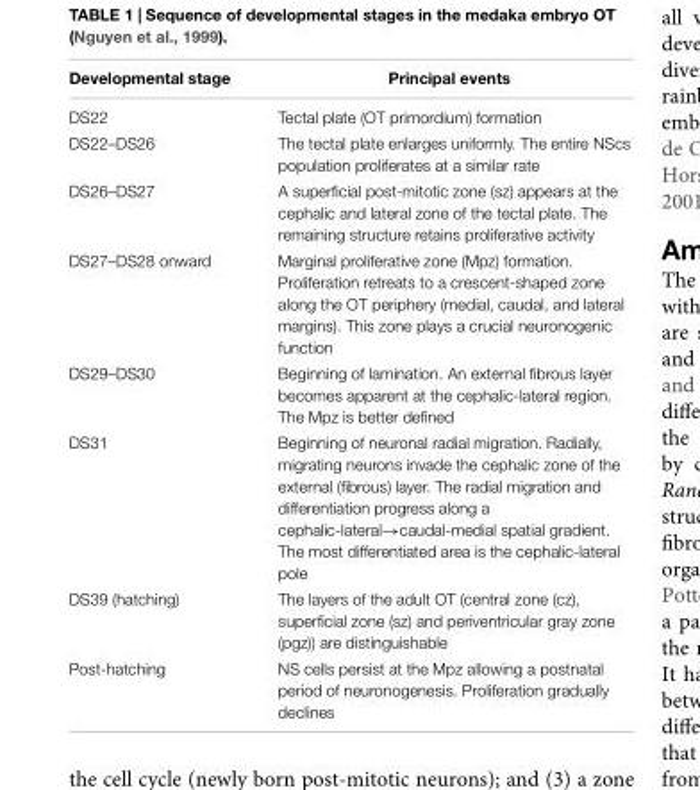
<table><thead><tr><td>Developmental stage</td><td>Principal events</td></tr></thead><tbody><tr><td>DS22</td><td>Tectal plate (OT primordium) formation</td></tr><tr><td>DS22–DS26</td><td>The tectal plate enlarges uniformly. The entire NScs population proliferates at a similar rate</td></tr><tr><td>DS26–DS27</td><td>A superficial post-mitotic zone (sz) appears at the cephalic and lateral zone of the tectal plate. The remaining structure retains proliferative activity</td></tr><tr><td>DS27–DS28 onward</td><td>Marginal proliferative zone (Mpz) formation. Proliferation retreats to a crescent-shaped zone along the OT periphery (medial, caudal, and lateral margins). This zone plays a crucial neuronogenic function</td></tr><tr><td>DS29–DS30</td><td>Beginning of lamination. An external fibrous layer becomes apparent at the cephalic-lateral region. The Mpz is better defined</td></tr><tr><td>DS31</td><td>Beginning of neuronal radial migration. Radially, migrating neurons invade the cephalic zone of the external (fibrous) layer. The radial migration and differentiation progress along a cephalic-lateral→caudal-medial spatial gradient. The most differentiated area is the cephalic-lateral pole</td></tr><tr><td>DS39 (hatching)</td><td>The layers of the adult OT (central zone (cz), superficial zone (sz) and periventricular gray zone (pgz)) are distinguishable</td></tr><tr><td>Post-hatching</td><td>NS cells persist at the Mpz allowing a postnatal period of neuronogenesis. Proliferation gradually declines</td></tr></tbody></table>